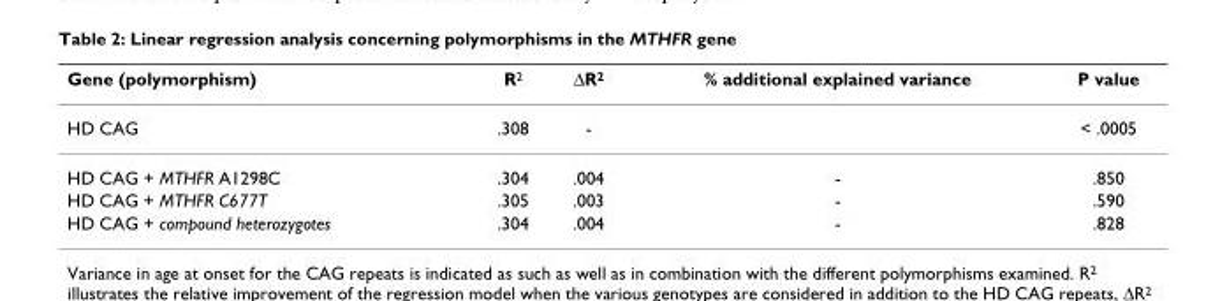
<table><thead><tr><td>Gene (polymorphism)</td><td>R<sup>2</sup></td><td>∆R2</td><td>% additional explained variance</td><td>P value</td></tr></thead><tbody><tr><td>HD CAG</td><td>.308</td><td>-</td><td></td><td>&lt; .0005</td></tr><tr><td>HD CAG + MTHFR A1298C</td><td>.304</td><td>.004</td><td>-</td><td>.850</td></tr><tr><td>HD CAG + MTHFR C677T</td><td>.305</td><td>.003</td><td>-</td><td>.590</td></tr><tr><td>HD CAG + compound heterozygotes</td><td>.304</td><td>.004</td><td>-</td><td>.828</td></tr></tbody></table>